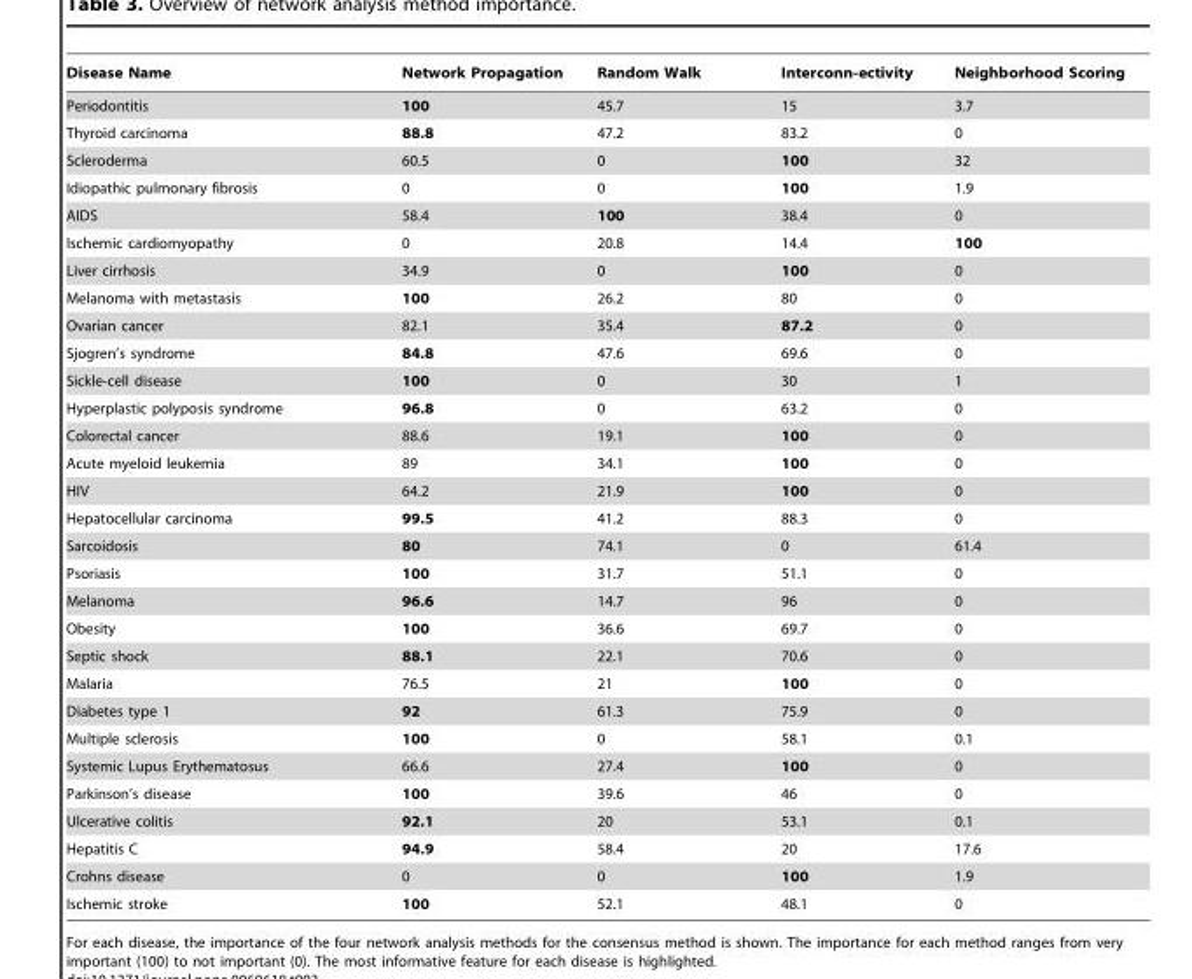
<table><thead><tr><td>Disease Name</td><td>Network Propagation</td><td>Random Walk</td><td>Interconn-ectivity</td><td>Neighborhood Scoring</td></tr></thead><tbody><tr><td>Periodontitis</td><td>100</td><td>45.7</td><td>15</td><td>3.7</td></tr><tr><td>Thyroid carcinoma</td><td>88.8</td><td>47.2</td><td>83.2</td><td>0</td></tr><tr><td>Scleroderma</td><td>60.5</td><td>0</td><td>100</td><td>32</td></tr><tr><td>Idiopathic pulmonary fibrosis</td><td>0</td><td>0</td><td>100</td><td>1.9</td></tr><tr><td>AIDS</td><td>58.4</td><td>100</td><td>38.4</td><td>0</td></tr><tr><td>Ischemic cardiomyopathy</td><td>0</td><td>20.8</td><td>14.4</td><td>100</td></tr><tr><td>Liver cirrhosis</td><td>34.9</td><td>0</td><td>100</td><td>0</td></tr><tr><td>Melanoma with metastasis</td><td>100</td><td>26.2</td><td>80</td><td>0</td></tr><tr><td>Ovarian cancer</td><td>82.1</td><td>35.4</td><td>87.2</td><td>0</td></tr><tr><td>Sjogren’s syndrome</td><td>84.8</td><td>47.6</td><td>69.6</td><td>0</td></tr><tr><td>Sickle-cell disease</td><td>100</td><td>0</td><td>30</td><td>1</td></tr><tr><td>Hyperplastic polyposis syndrome</td><td>96.8</td><td>0</td><td>63.2</td><td>0</td></tr><tr><td>Colorectal cancer</td><td>88.6</td><td>19.1</td><td>100</td><td>0</td></tr><tr><td>Acute myeloid leukemia</td><td>89</td><td>34.1</td><td>100</td><td>0</td></tr><tr><td>HIV</td><td>64.2</td><td>21.9</td><td>100</td><td>0</td></tr><tr><td>Hepatocellular carcinoma</td><td>99.5</td><td>41.2</td><td>88.3</td><td>0</td></tr><tr><td>Sarcoidosis</td><td>80</td><td>74.1</td><td>0</td><td>61.4</td></tr><tr><td>Psoriasis</td><td>100</td><td>31.7</td><td>51.1</td><td>0</td></tr><tr><td>Melanoma</td><td>96.6</td><td>14.7</td><td>96</td><td>0</td></tr><tr><td>Obesity</td><td>100</td><td>36.6</td><td>69.7</td><td>0</td></tr><tr><td>Septic shock</td><td>88.1</td><td>22.1</td><td>70.6</td><td>0</td></tr><tr><td>Malaria</td><td>76.5</td><td>21</td><td>100</td><td>0</td></tr><tr><td>Diabetes type 1</td><td>92</td><td>61.3</td><td>75.9</td><td>0</td></tr><tr><td>Multiple sclerosis</td><td>100</td><td>0</td><td>58.1</td><td>0.1</td></tr><tr><td>Systemic Lupus Erythematosus</td><td>66.6</td><td>27.4</td><td>100</td><td>0</td></tr><tr><td>Parkinson’s disease</td><td>100</td><td>39.6</td><td>46</td><td>0</td></tr><tr><td>Ulcerative colitis</td><td>92.1</td><td>20</td><td>53.1</td><td>0.1</td></tr><tr><td>Hepatitis C</td><td>94.9</td><td>58.4</td><td>20</td><td>17.6</td></tr><tr><td>Crohns disease</td><td>0</td><td>0</td><td>100</td><td>1.9</td></tr><tr><td>Ischemic stroke</td><td>100</td><td>52.1</td><td>48.1</td><td>0</td></tr></tbody></table>